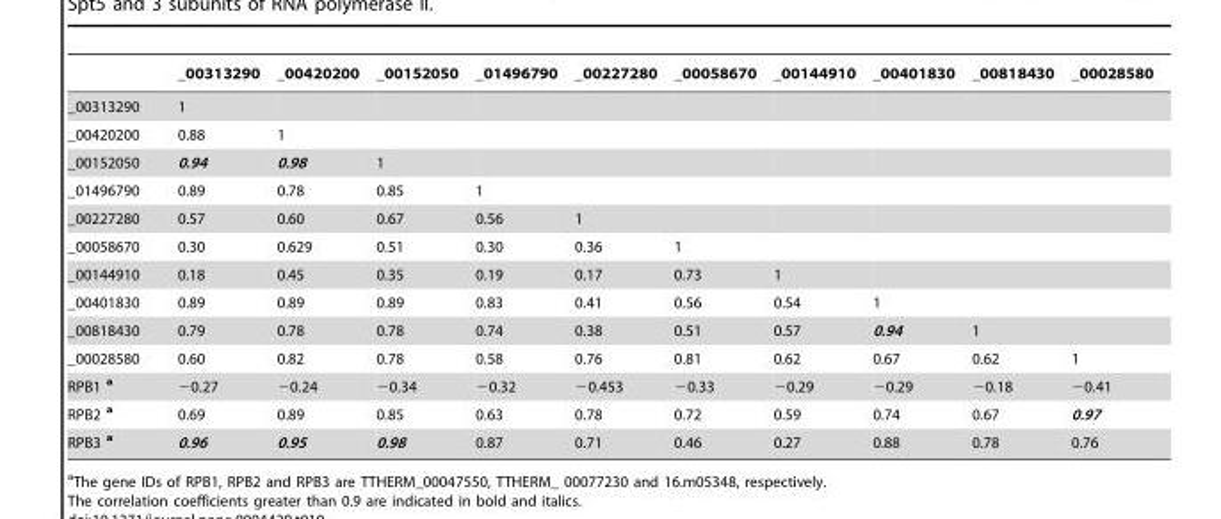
<table><thead><tr><td></td><td>_00313290</td><td>_00420200</td><td>_00152050</td><td>_01496790</td><td>_00227280</td><td>_00058670</td><td>_00144910</td><td>_00401830</td><td>_00818430</td><td>_00028580</td></tr></thead><tbody><tr><td>_00313290</td><td>1</td><td></td><td></td><td></td><td></td><td></td><td></td><td></td><td></td><td></td></tr><tr><td>_00420200</td><td>0.88</td><td>1</td><td></td><td></td><td></td><td></td><td></td><td></td><td></td><td></td></tr><tr><td>_00152050</td><td>0.94</td><td>0.98</td><td>1</td><td></td><td></td><td></td><td></td><td></td><td></td><td></td></tr><tr><td>_01496790</td><td>0.89</td><td>0.78</td><td>0.85</td><td>1</td><td></td><td></td><td></td><td></td><td></td><td></td></tr><tr><td>_00227280</td><td>0.57</td><td>0.60</td><td>0.67</td><td>0.56</td><td>1</td><td></td><td></td><td></td><td></td><td></td></tr><tr><td>_00058670</td><td>0.30</td><td>0.629</td><td>0.51</td><td>0.30</td><td>0.36</td><td>1</td><td></td><td></td><td></td><td></td></tr><tr><td>_00144910</td><td>0.18</td><td>0.45</td><td>0.35</td><td>0.19</td><td>0.17</td><td>0.73</td><td>1</td><td></td><td></td><td></td></tr><tr><td>_00401830</td><td>0.89</td><td>0.89</td><td>0.89</td><td>0.83</td><td>0.41</td><td>0.56</td><td>0.54</td><td>1</td><td></td><td></td></tr><tr><td>_00818430</td><td>0.79</td><td>0.78</td><td>0.78</td><td>0.74</td><td>0.38</td><td>0.51</td><td>0.57</td><td>0.94</td><td>1</td><td></td></tr><tr><td>_00028580</td><td>0.60</td><td>0.82</td><td>0.78</td><td>0.58</td><td>0.76</td><td>0.81</td><td>0.62</td><td>0.67</td><td>0.62</td><td>1</td></tr><tr><td>RPB1 a</td><td>−0.27</td><td>−0.24</td><td>−0.34</td><td>−0.32</td><td>−0.453</td><td>−0.33</td><td>−0.29</td><td>−0.29</td><td>−0.18</td><td>−0.41</td></tr><tr><td>RPB2 a</td><td>0.69</td><td>0.89</td><td>0.85</td><td>0.63</td><td>0.78</td><td>0.72</td><td>0.59</td><td>0.74</td><td>0.67</td><td>0.97</td></tr><tr><td>RPB3 a</td><td>0.96</td><td>0.95</td><td>0.98</td><td>0.87</td><td>0.71</td><td>0.46</td><td>0.27</td><td>0.88</td><td>0.78</td><td>0.76</td></tr></tbody></table>